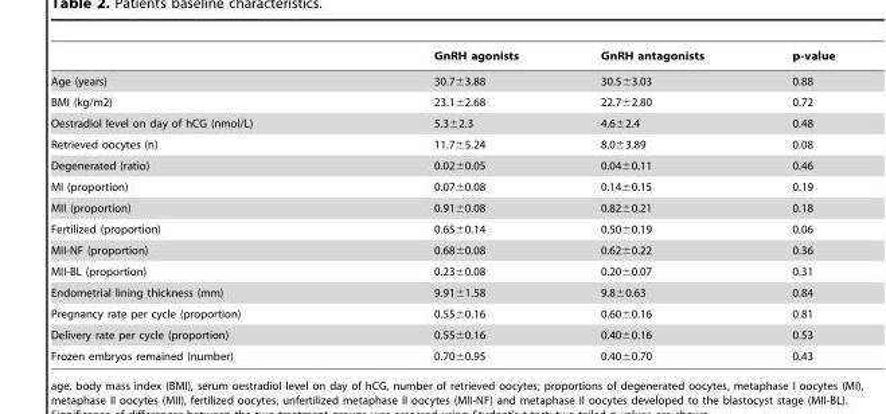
<table><thead><tr><td></td><td>GnRH agonists</td><td>GnRH antagonists</td><td>p-value</td></tr></thead><tbody><tr><td>Age (years)</td><td>30.7±3.88</td><td>30.5±3.03</td><td>0.88</td></tr><tr><td>BMI (kg/m2)</td><td>23.1±2.68</td><td>22.7±2.80</td><td>0.72</td></tr><tr><td>Oestradiol level on day of hCG (nmol/L)</td><td>5.3±2.3</td><td>4.6±2.4</td><td>0.48</td></tr><tr><td>Retrieved oocytes (n)</td><td>11.7±5.24</td><td>8.0±3.89</td><td>0.08</td></tr><tr><td>Degenerated (ratio)</td><td>0.02±0.05</td><td>0.04±0.11</td><td>0.46</td></tr><tr><td>MI (proportion)</td><td>0.07±0.08</td><td>0.14±0.15</td><td>0.19</td></tr><tr><td>MII (proportion)</td><td>0.91±0.08</td><td>0.82±0.21</td><td>0.18</td></tr><tr><td>Fertilized (proportion)</td><td>0.65±0.14</td><td>0.50±0.19</td><td>0.06</td></tr><tr><td>MII-NF (proportion)</td><td>0.68±0.08</td><td>0.62±0.22</td><td>0.36</td></tr><tr><td>MII-BL (proportion)</td><td>0.23±0.08</td><td>0.20±0.07</td><td>0.31</td></tr><tr><td>Endometrial lining thickness (mm)</td><td>9.91±1.58</td><td>9.8±0.63</td><td>0.84</td></tr><tr><td>Pregnancy rate per cycle (proportion)</td><td>0.55±0.16</td><td>0.60±0.16</td><td>0.81</td></tr><tr><td>Delivery rate per cycle (proportion)</td><td>0.55±0.16</td><td>0.40±0.16</td><td>0.53</td></tr><tr><td>Frozen embryos remained (number)</td><td>0.70±0.95</td><td>0.40±0.70</td><td>0.43</td></tr></tbody></table>